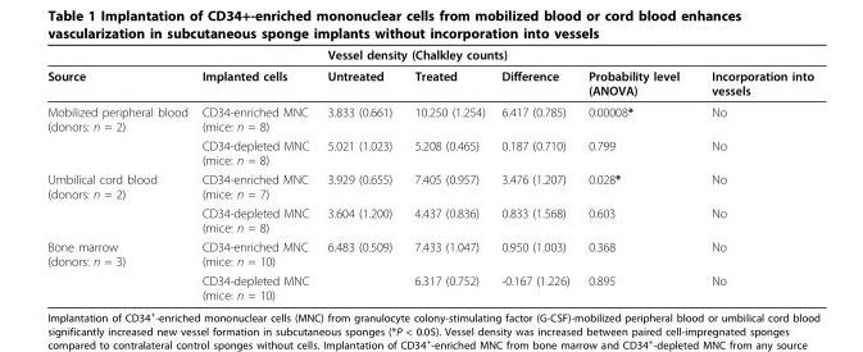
<table><thead><tr><td rowspan="2">Source</td><td rowspan="2">Implanted cells</td><td colspan="3">Vessel density (Chalkley counts)</td><td rowspan="2">Probability level (ANOVA)</td><td rowspan="2">Incorporation into vessels</td></tr><tr><td>Untreated</td><td>Treated</td><td>Difference</td></tr></thead><tbody><tr><td rowspan="2">Mobilized peripheral blood (donors: n = 2)</td><td>CD34-enriched MNC (mice: n = 8)</td><td>3.833 (0.661)</td><td>10.250 (1.254)</td><td>6.417 (0.785)</td><td>0.00008*</td><td>No</td></tr><tr><td>CD34-depleted MNC (mice: n = 8)</td><td>5.021 (1.023)</td><td>5.208 (0.465)</td><td>0.187 (0.710)</td><td>0.799</td><td>No</td></tr><tr><td rowspan="2">Umbilical cord blood (donors: n = 2)</td><td>CD34-enriched MNC (mice: n = 7)</td><td>3.929 (0.655)</td><td>7.405 (0.957)</td><td>3.476 (1.207)</td><td>0.028*</td><td>No</td></tr><tr><td>CD34-depleted MNC (mice: n = 8)</td><td>3.604 (1.200)</td><td>4.437 (0.836)</td><td>0.833 (1.568)</td><td>0.603</td><td>No</td></tr><tr><td rowspan="2">Bone marrow (donors: n = 3)</td><td>CD34-enriched MNC (mice: n = 10)</td><td>6.483 (0.509)</td><td>7.433 (1.047)</td><td>0.950 (1.003)</td><td>0.368</td><td>No</td></tr><tr><td>CD34-depleted MNC (mice: n = 10)</td><td></td><td>6.317 (0.752)</td><td>-0.167 (1.226)</td><td>0.895</td><td>No</td></tr></tbody></table>